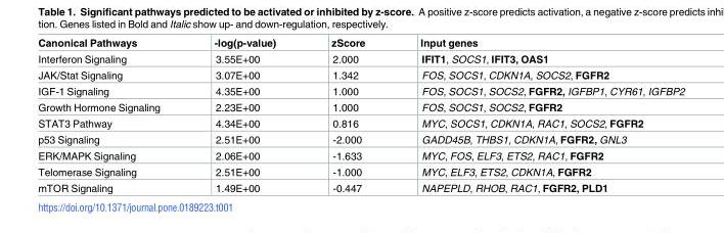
<table><thead><tr><td>Canonical Pathways</td><td>-log(p-value)</td><td>zScore</td><td>Input genes</td></tr></thead><tbody><tr><td>Interferon Signaling</td><td>3.55E+00</td><td>2.000</td><td>IFIT1, SOCS1, IFIT3, OAS1</td></tr><tr><td>JAK/Stat Signaling</td><td>3.07E+00</td><td>1.342</td><td>FOS, SOCS1, CDKN1A, SOCS2, FGFR2</td></tr><tr><td>IGF-1 Signaling</td><td>4.35E+00</td><td>1.000</td><td>FOS, SOCS1, SOCS2, FGFR2, IGFBP1, CYR61, IGFBP2</td></tr><tr><td>Growth Hormone Signaling</td><td>2.23E+00</td><td>1.000</td><td>FOS, SOCS1, SOCS2, FGFR2</td></tr><tr><td>STAT3 Pathway</td><td>4.34E+00</td><td>0.816</td><td>MYC, SOCS1, CDKN1A, RAC1, SOCS2, FGFR2</td></tr><tr><td>p53 Signaling</td><td>2.51E+00</td><td>-2.000</td><td>GADD45B, THBS1, CDKN1A, FGFR2, GNL3</td></tr><tr><td>ERK/MAPK Signaling</td><td>2.06E+00</td><td>-1.633</td><td>MYC, FOS, ELF3, ETS2, RAC1, FGFR2</td></tr><tr><td>Telomerase Signaling</td><td>2.51E+00</td><td>-1.000</td><td>MYC, ELF3, ETS2, CDKN1A, FGFR2</td></tr><tr><td>mTOR Signaling</td><td>1.49E+00</td><td>-0.447</td><td>NAPEPLD, RHOB, RAC1, FGFR2, PLD1</td></tr></tbody></table>